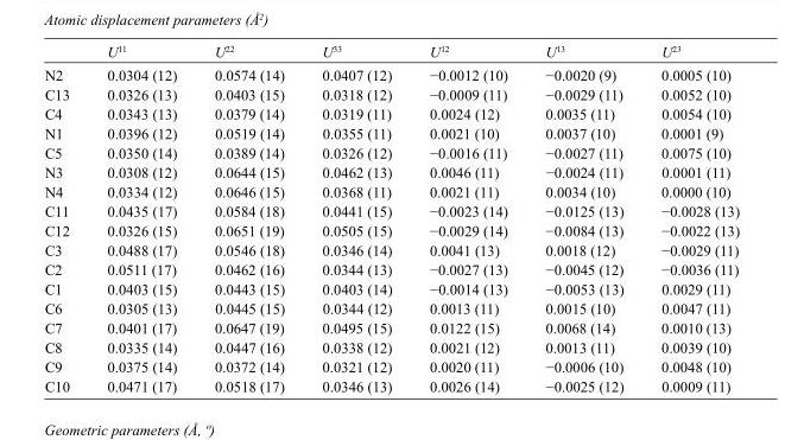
<table><thead><tr><td></td><td>U<sup>11</sup></td><td>U<sup>22</sup></td><td>U<sup>33</sup></td><td>U<sup>12</sup></td><td>U<sup>13</sup></td><td>U<sup>23</sup></td></tr></thead><tbody><tr><td>N2</td><td>0.0304 (12)</td><td>0.0574 (14)</td><td>0.0407 (12)</td><td>−0.0012 (10)</td><td>−0.0020 (9)</td><td>0.0005 (10)</td></tr><tr><td>C13</td><td>0.0326 (13)</td><td>0.0403 (15)</td><td>0.0318 (12)</td><td>−0.0009 (11)</td><td>−0.0029 (11)</td><td>0.0052 (10)</td></tr><tr><td>C4</td><td>0.0343 (13)</td><td>0.0379 (14)</td><td>0.0319 (11)</td><td>0.0024 (12)</td><td>0.0035 (11)</td><td>0.0054 (10)</td></tr><tr><td>N1</td><td>0.0396 (12)</td><td>0.0519 (14)</td><td>0.0355 (11)</td><td>0.0021 (10)</td><td>0.0037 (10)</td><td>0.0001 (9)</td></tr><tr><td>C5</td><td>0.0350 (14)</td><td>0.0389 (14)</td><td>0.0326 (12)</td><td>−0.0016 (11)</td><td>−0.0027 (11)</td><td>0.0075 (10)</td></tr><tr><td>N3</td><td>0.0308 (12)</td><td>0.0644 (15)</td><td>0.0462 (13)</td><td>0.0046 (11)</td><td>−0.0024 (11)</td><td>0.0001 (11)</td></tr><tr><td>N4</td><td>0.0334 (12)</td><td>0.0646 (15)</td><td>0.0368 (11)</td><td>0.0021 (11)</td><td>0.0034 (10)</td><td>0.0000 (10)</td></tr><tr><td>C11</td><td>0.0435 (17)</td><td>0.0584 (18)</td><td>0.0441 (15)</td><td>−0.0023 (14)</td><td>−0.0125 (13)</td><td>−0.0028 (13)</td></tr><tr><td>C12</td><td>0.0326 (15)</td><td>0.0651 (19)</td><td>0.0505 (15)</td><td>−0.0029 (14)</td><td>−0.0084 (13)</td><td>−0.0022 (13)</td></tr><tr><td>C3</td><td>0.0488 (17)</td><td>0.0546 (18)</td><td>0.0346 (14)</td><td>0.0041 (13)</td><td>0.0018 (12)</td><td>−0.0029 (11)</td></tr><tr><td>C2</td><td>0.0511 (17)</td><td>0.0462 (16)</td><td>0.0344 (13)</td><td>−0.0027 (13)</td><td>−0.0045 (12)</td><td>−0.0036 (11)</td></tr><tr><td>C1</td><td>0.0403 (15)</td><td>0.0443 (15)</td><td>0.0403 (14)</td><td>−0.0014 (13)</td><td>−0.0053 (13)</td><td>0.0029 (11)</td></tr><tr><td>C6</td><td>0.0305 (13)</td><td>0.0445 (15)</td><td>0.0344 (12)</td><td>0.0013 (11)</td><td>0.0015 (10)</td><td>0.0047 (11)</td></tr><tr><td>C7</td><td>0.0401 (17)</td><td>0.0647 (19)</td><td>0.0495 (15)</td><td>0.0122 (15)</td><td>0.0068 (14)</td><td>0.0010 (13)</td></tr><tr><td>C8</td><td>0.0335 (14)</td><td>0.0447 (16)</td><td>0.0338 (12)</td><td>0.0021 (12)</td><td>0.0013 (11)</td><td>0.0039 (10)</td></tr><tr><td>C9</td><td>0.0375 (14)</td><td>0.0372 (14)</td><td>0.0321 (12)</td><td>0.0020 (11)</td><td>−0.0006 (10)</td><td>0.0048 (10)</td></tr><tr><td>C10</td><td>0.0471 (17)</td><td>0.0518 (17)</td><td>0.0346 (13)</td><td>0.0026 (14)</td><td>−0.0025 (12)</td><td>0.0009 (11)</td></tr></tbody></table>